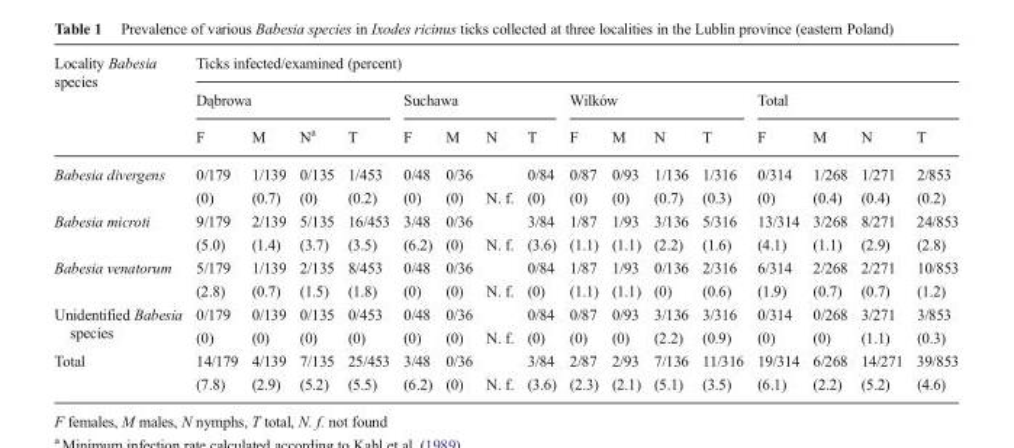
<table><thead><tr><td rowspan="3">Locality Babesia species</td><td colspan="16">Ticks infected/examined (percent)</td></tr><tr><td colspan="4">Dąbrowa</td><td colspan="4">Suchawa</td><td colspan="4">Wilków</td><td colspan="4">Total</td></tr><tr><td>F</td><td>M</td><td>N<sup>a</sup></td><td>T</td><td>F</td><td>M</td><td>N</td><td>T</td><td>F</td><td>M</td><td>N</td><td>T</td><td>F</td><td>M</td><td>N</td><td>T</td></tr></thead><tbody><tr><td rowspan="2">Babesia divergens</td><td>0/179</td><td>1/139</td><td>0/135</td><td>1/453</td><td>0/48</td><td>0/36</td><td></td><td>0/84</td><td>0/87</td><td>0/93</td><td>1/136</td><td>1/316</td><td>0/314</td><td>1/268</td><td>1/271</td><td>2/853</td></tr><tr><td>(0)</td><td>(0.7)</td><td>(0)</td><td>(0.2)</td><td>(0)</td><td>(0)</td><td>N. f.</td><td>(0)</td><td>(0)</td><td>(0)</td><td>(0.7)</td><td>(0.3)</td><td>(0)</td><td>(0.4)</td><td>(0.4)</td><td>(0.2)</td></tr><tr><td rowspan="2">Babesia microti</td><td>9/179</td><td>2/139</td><td>5/135</td><td>16/453</td><td>3/48</td><td>0/36</td><td></td><td>3/84</td><td>1/87</td><td>1/93</td><td>3/136</td><td>5/316</td><td>13/314</td><td>3/268</td><td>8/271</td><td>24/853</td></tr><tr><td>(5.0)</td><td>(1.4)</td><td>(3.7)</td><td>(3.5)</td><td>(6.2)</td><td>(0)</td><td>N. f.</td><td>(3.6)</td><td>(1.1)</td><td>(1.1)</td><td>(2.2)</td><td>(1.6)</td><td>(4.1)</td><td>(1.1)</td><td>(2.9)</td><td>(2.8)</td></tr><tr><td rowspan="2">Babesia venatorum</td><td>5/179</td><td>1/139</td><td>2/135</td><td>8/453</td><td>0/48</td><td>0/36</td><td></td><td>0/84</td><td>1/87</td><td>1/93</td><td>0/136</td><td>2/316</td><td>6/314</td><td>2/268</td><td>2/271</td><td>10/853</td></tr><tr><td>(2.8)</td><td>(0.7)</td><td>(1.5)</td><td>(1.8)</td><td>(0)</td><td>(0)</td><td>N. f.</td><td>(0)</td><td>(1.1)</td><td>(1.1)</td><td>(0)</td><td>(0.6)</td><td>(1.9)</td><td>(0.7)</td><td>(0.7)</td><td>(1.2)</td></tr><tr><td rowspan="2">Unidentified Babesia species</td><td>0/179</td><td>0/139</td><td>0/135</td><td>0/453</td><td>0/48</td><td>0/36</td><td></td><td>0/84</td><td>0/87</td><td>0/93</td><td>3/136</td><td>3/316</td><td>0/314</td><td>0/268</td><td>3/271</td><td>3/853</td></tr><tr><td>(0)</td><td>(0)</td><td>(0)</td><td>(0)</td><td>(0)</td><td>(0)</td><td>N. f.</td><td>(0)</td><td>(0)</td><td>(0)</td><td>(2.2)</td><td>(0.9)</td><td>(0)</td><td>(0)</td><td>(1.1)</td><td>(0.3)</td></tr><tr><td rowspan="2">Total</td><td>14/179</td><td>4/139</td><td>7/135</td><td>25/453</td><td>3/48</td><td>0/36</td><td></td><td>3/84</td><td>2/87</td><td>2/93</td><td>7/136</td><td>11/316</td><td>19/314</td><td>6/268</td><td>14/271</td><td>39/853</td></tr><tr><td>(7.8)</td><td>(2.9)</td><td>(5.2)</td><td>(5.5)</td><td>(6.2)</td><td>(0)</td><td>N. f.</td><td>(3.6)</td><td>(2.3)</td><td>(2.1)</td><td>(5.1)</td><td>(3.5)</td><td>(6.1)</td><td>(2.2)</td><td>(5.2)</td><td>(4.6)</td></tr></tbody></table>